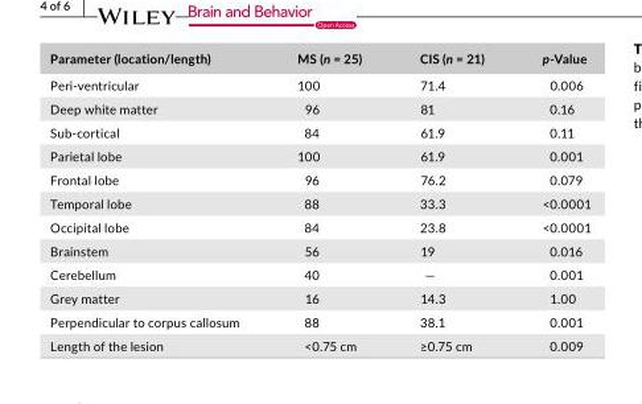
<table><thead><tr><td>Parameter (location/length)</td><td>MS (n = 25)</td><td>CIS (n = 21)</td><td>p- Value</td></tr></thead><tbody><tr><td>Peri- ventricular</td><td>100</td><td>71.4</td><td>0.006</td></tr><tr><td>Deep white matter</td><td>96</td><td>81</td><td>0.16</td></tr><tr><td>Sub- cortical</td><td>84</td><td>61.9</td><td>0.11</td></tr><tr><td>Parietal lobe</td><td>100</td><td>61.9</td><td>0.001</td></tr><tr><td>Frontal lobe</td><td>96</td><td>76.2</td><td>0.079</td></tr><tr><td>Temporal lobe</td><td>88</td><td>33.3</td><td>&lt;0.0001</td></tr><tr><td>Occipital lobe</td><td>84</td><td>23.8</td><td>&lt;0.0001</td></tr><tr><td>Brainstem</td><td>56</td><td>19</td><td>0.016</td></tr><tr><td>Cerebellum</td><td>40</td><td>—</td><td>0.001</td></tr><tr><td>Grey matter</td><td>16</td><td>14.3</td><td>1.00</td></tr><tr><td>Perpendicular to corpus callosum</td><td>88</td><td>38.1</td><td>0.001</td></tr><tr><td>Length of the lesion</td><td>&lt;0.75 cm</td><td>≥0.75 cm</td><td>0.009</td></tr></tbody></table>